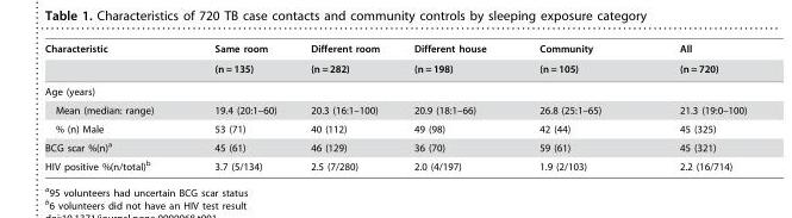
<table><thead><tr><td rowspan="2">Characteristic</td><td rowspan="2">Same room (n = 135)</td><td rowspan="2">Different room (n = 282)</td><td rowspan="2">Different house (n = 198)</td><td rowspan="2">Community (n = 105)</td><td rowspan="2">All (n = 720)</td></tr><tr></tr></thead><tbody><tr><td colspan="6">Age (years)</td></tr><tr><td>Mean (median: range)</td><td>19.4 (20:1–60)</td><td>20.3 (16:1–100)</td><td>20.9 (18:1–66)</td><td>26.8 (25:1–65)</td><td>21.3 (19:0–100)</td></tr><tr><td>% (n) Male</td><td>53 (71)</td><td>40 (112)</td><td>49 (98)</td><td>42 (44)</td><td>45 (325)</td></tr><tr><td>BCG scar %(n)<sup>a</sup></td><td>45 (61)</td><td>46 (129)</td><td>36 (70)</td><td>59 (61)</td><td>45 (321)</td></tr><tr><td>HIV positive %(n/total)<sup>b</sup></td><td>3.7 (5/134)</td><td>2.5 (7/280)</td><td>2.0 (4/197)</td><td>1.9 (2/103)</td><td>2.2 (16/714)</td></tr></tbody></table>